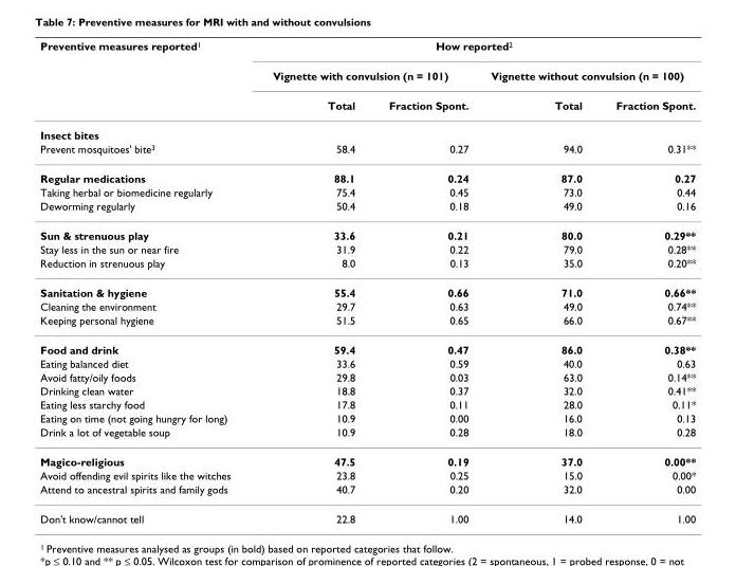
<table><thead><tr><td rowspan="3">Preventive measures reported<sup>1</sup></td><td colspan="4">How reported<sup>2</sup></td></tr><tr><td colspan="2">Vignette with convulsion (n = 101)</td><td colspan="2">Vignette without convulsion (n = 100)</td></tr><tr><td>Total</td><td>Fraction Spont.</td><td>Total</td><td>Fraction Spont.</td></tr></thead><tbody><tr><td colspan="5">Insect bites</td></tr><tr><td>Prevent mosquitoes&#x27; bite<sup>3</sup></td><td>58.4</td><td>0.27</td><td>94.0</td><td>0.31**</td></tr><tr><td>Regular medications</td><td>88.1</td><td>0.24</td><td>87.0</td><td>0.27</td></tr><tr><td>Taking herbal or biomedicine regularly</td><td>75.4</td><td>0.45</td><td>73.0</td><td>0.44</td></tr><tr><td>Deworming regularly</td><td>50.4</td><td>0.18</td><td>49.0</td><td>0.16</td></tr><tr><td>Sun &amp; strenuous play</td><td>33.6</td><td>0.21</td><td>80.0</td><td>0.29**</td></tr><tr><td>Stay less in the sun or near fire</td><td>31.9</td><td>0.22</td><td>79.0</td><td>0.28**</td></tr><tr><td>Reduction in strenuous play</td><td>8.0</td><td>0.13</td><td>35.0</td><td>0.20**</td></tr><tr><td>Sanitation &amp; hygiene</td><td>55.4</td><td>0.66</td><td>71.0</td><td>0.66**</td></tr><tr><td>Cleaning the environment</td><td>29.7</td><td>0.63</td><td>49.0</td><td>0.74**</td></tr><tr><td>Keeping personal hygiene</td><td>51.5</td><td>0.65</td><td>66.0</td><td>0.67**</td></tr><tr><td>Food and drink</td><td>59.4</td><td>0.47</td><td>86.0</td><td>0.38**</td></tr><tr><td>Eating balanced diet</td><td>33.6</td><td>0.59</td><td>40.0</td><td>0.63</td></tr><tr><td>Avoid fatty/oily foods</td><td>29.8</td><td>0.03</td><td>63.0</td><td>0.14**</td></tr><tr><td>Drinking clean water</td><td>18.8</td><td>0.37</td><td>32.0</td><td>0.41**</td></tr><tr><td>Eating less starchy food</td><td>17.8</td><td>0.11</td><td>28.0</td><td>0.11*</td></tr><tr><td>Eating on time (not going hungry for long)</td><td>10.9</td><td>0.00</td><td>16.0</td><td>0.13</td></tr><tr><td>Drink a lot of vegetable soup</td><td>10.9</td><td>0.28</td><td>18.0</td><td>0.28</td></tr><tr><td>Magico-religious</td><td>47.5</td><td>0.19</td><td>37.0</td><td>0.00**</td></tr><tr><td>Avoid offending evil spirits like the witches</td><td>23.8</td><td>0.25</td><td>15.0</td><td>0.00*</td></tr><tr><td>Attend to ancestral spirits and family gods</td><td>40.7</td><td>0.20</td><td>32.0</td><td>0.00</td></tr><tr><td>Don&#x27;t know/cannot tell</td><td>22.8</td><td>1.00</td><td>14.0</td><td>1.00</td></tr></tbody></table>